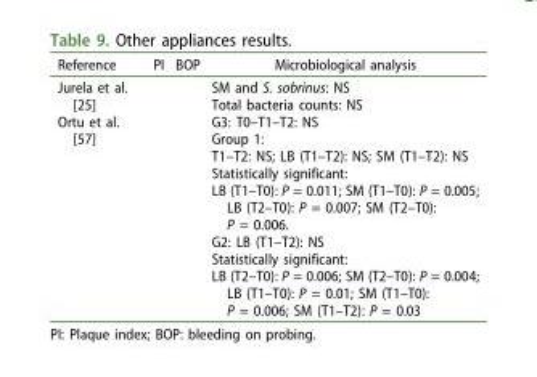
<table><thead><tr><td>Reference</td><td>PI</td><td>BOP</td><td>Microbiological analysis</td></tr></thead><tbody><tr><td>Jurela et al. [25]</td><td></td><td></td><td>SM and S. sobrinus: NS Total bacteria counts: NS</td></tr><tr><td>Ortu et al. [57]</td><td></td><td></td><td>G3: T0–T1–T2: NS Group 1: T1–T2: NS; LB (T1–T2): NS; SM (T1–T2): NS Statistically significant: LB (T1–T0): P = 0.011; SM (T1–T0): P = 0.005; LB (T2–T0): P = 0.007; SM (T2–T0): P = 0.006. G2: LB (T1–T2): NS Statistically significant: LB (T2–T0): P = 0.006; SM (T2–T0): P = 0.004; LB (T1–T0): P = 0.01; SM (T1–T0): P = 0.006; SM (T1–T2): P = 0.03</td></tr></tbody></table>